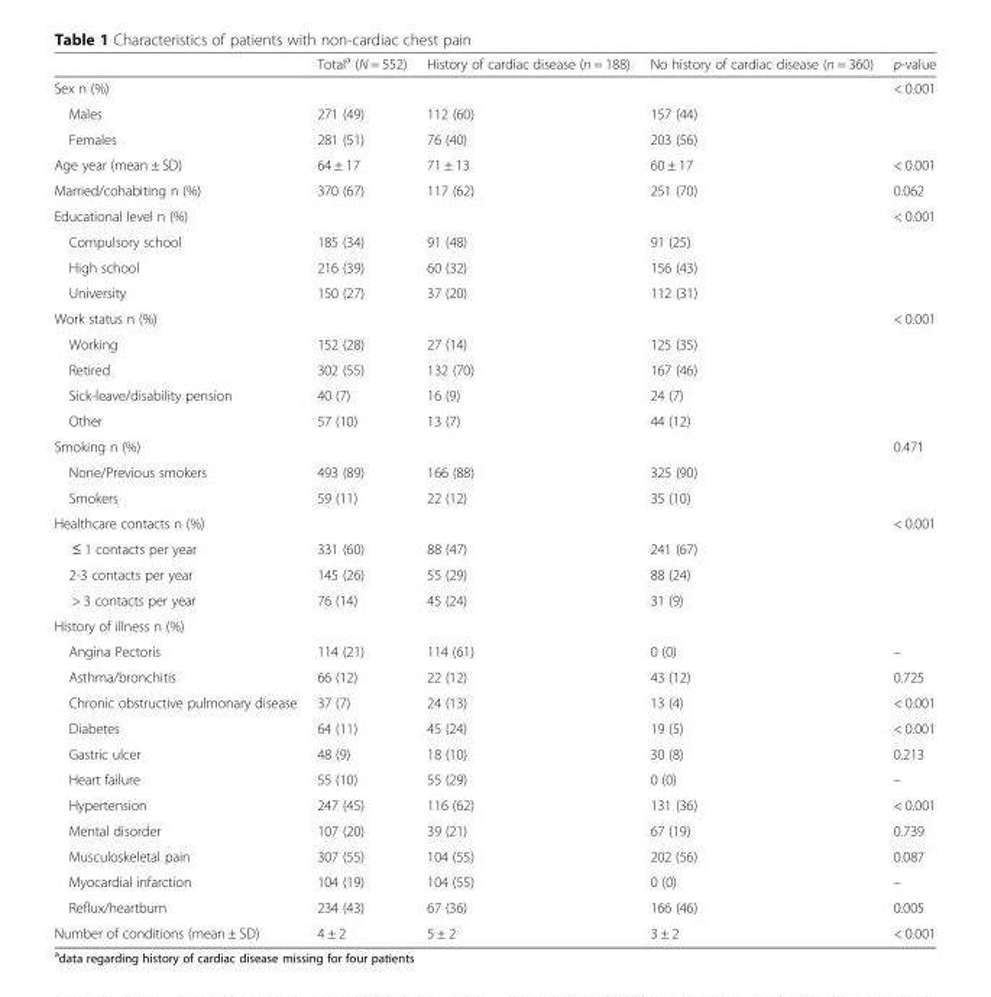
<table><thead><tr><td></td><td>Total<sup>a</sup> (N = 552)</td><td>History of cardiac disease (n = 188)</td><td>No history of cardiac disease (n = 360)</td><td>p-value</td></tr></thead><tbody><tr><td>Sex n (%)</td><td></td><td></td><td></td><td>&lt; 0.001</td></tr><tr><td>Males</td><td>271 (49)</td><td>112 (60)</td><td>157 (44)</td><td></td></tr><tr><td>Females</td><td>281 (51)</td><td>76 (40)</td><td>203 (56)</td><td></td></tr><tr><td>Age year (mean ± SD)</td><td>64 ± 17</td><td>71 ± 13</td><td>60 ± 17</td><td>&lt; 0.001</td></tr><tr><td>Married/cohabiting n (%)</td><td>370 (67)</td><td>117 (62)</td><td>251 (70)</td><td>0.062</td></tr><tr><td>Educational level n (%)</td><td></td><td></td><td></td><td>&lt; 0.001</td></tr><tr><td>Compulsory school</td><td>185 (34)</td><td>91 (48)</td><td>91 (25)</td><td></td></tr><tr><td>High school</td><td>216 (39)</td><td>60 (32)</td><td>156 (43)</td><td></td></tr><tr><td>University</td><td>150 (27)</td><td>37 (20)</td><td>112 (31)</td><td></td></tr><tr><td>Work status n (%)</td><td></td><td></td><td></td><td>&lt; 0.001</td></tr><tr><td>Working</td><td>152 (28)</td><td>27 (14)</td><td>125 (35)</td><td></td></tr><tr><td>Retired</td><td>302 (55)</td><td>132 (70)</td><td>167 (46)</td><td></td></tr><tr><td>Sick-leave/disability pension</td><td>40 (7)</td><td>16 (9)</td><td>24 (7)</td><td></td></tr><tr><td>Other</td><td>57 (10)</td><td>13 (7)</td><td>44 (12)</td><td></td></tr><tr><td>Smoking n (%)</td><td></td><td></td><td></td><td>0.471</td></tr><tr><td>None/Previous smokers</td><td>493 (89)</td><td>166 (88)</td><td>325 (90)</td><td></td></tr><tr><td>Smokers</td><td>59 (11)</td><td>22 (12)</td><td>35 (10)</td><td></td></tr><tr><td>Healthcare contacts n (%)</td><td></td><td></td><td></td><td>&lt; 0.001</td></tr><tr><td>≤ 1 contacts per year</td><td>331 (60)</td><td>88 (47)</td><td>241 (67)</td><td></td></tr><tr><td>2-3 contacts per year</td><td>145 (26)</td><td>55 (29)</td><td>88 (24)</td><td></td></tr><tr><td>&gt; 3 contacts per year</td><td>76 (14)</td><td>45 (24)</td><td>31 (9)</td><td></td></tr><tr><td colspan="5">History of illness n (%)</td></tr><tr><td>Angina Pectoris</td><td>114 (21)</td><td>114 (61)</td><td>0 (0)</td><td>–</td></tr><tr><td>Asthma/bronchitis</td><td>66 (12)</td><td>22 (12)</td><td>43 (12)</td><td>0.725</td></tr><tr><td>Chronic obstructive pulmonary disease</td><td>37 (7)</td><td>24 (13)</td><td>13 (4)</td><td>&lt; 0.001</td></tr><tr><td>Diabetes</td><td>64 (11)</td><td>45 (24)</td><td>19 (5)</td><td>&lt; 0.001</td></tr><tr><td>Gastric ulcer</td><td>48 (9)</td><td>18 (10)</td><td>30 (8)</td><td>0.213</td></tr><tr><td>Heart failure</td><td>55 (10)</td><td>55 (29)</td><td>0 (0)</td><td>–</td></tr><tr><td>Hypertension</td><td>247 (45)</td><td>116 (62)</td><td>131 (36)</td><td>&lt; 0.001</td></tr><tr><td>Mental disorder</td><td>107 (20)</td><td>39 (21)</td><td>67 (19)</td><td>0.739</td></tr><tr><td>Musculoskeletal pain</td><td>307 (55)</td><td>104 (55)</td><td>202 (56)</td><td>0.087</td></tr><tr><td>Myocardial infarction</td><td>104 (19)</td><td>104 (55)</td><td>0 (0)</td><td>–</td></tr><tr><td>Reflux/heartburn</td><td>234 (43)</td><td>67 (36)</td><td>166 (46)</td><td>0.005</td></tr><tr><td>Number of conditions (mean ± SD)</td><td>4 ± 2</td><td>5 ± 2</td><td>3 ± 2</td><td>&lt; 0.001</td></tr></tbody></table>